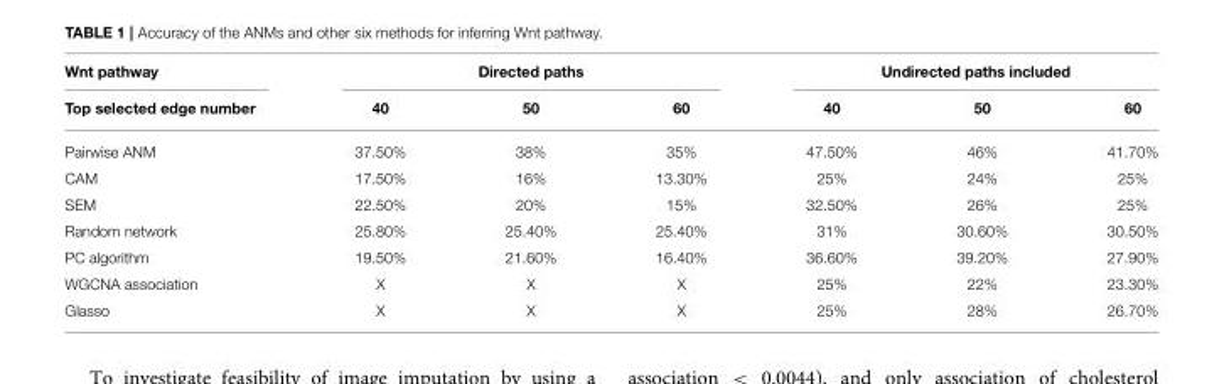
<table><thead><tr><td rowspan="2">Wnt pathway Top selected edge number</td><td colspan="3">Directed paths</td><td colspan="3">Undirected paths included</td></tr><tr><td>40</td><td>50</td><td>60</td><td>40</td><td>50</td><td>60</td></tr></thead><tbody><tr><td>Pairwise ANM</td><td>37.50%</td><td>38%</td><td>35%</td><td>47.50%</td><td>46%</td><td>41.70%</td></tr><tr><td>CAM</td><td>17.50%</td><td>16%</td><td>13.30%</td><td>25%</td><td>24%</td><td>25%</td></tr><tr><td>SEM</td><td>22.50%</td><td>20%</td><td>15%</td><td>32.50%</td><td>26%</td><td>25%</td></tr><tr><td>Random network</td><td>25.80%</td><td>25.40%</td><td>25.40%</td><td>31%</td><td>30.60%</td><td>30.50%</td></tr><tr><td>PC algorithm</td><td>19.50%</td><td>21.60%</td><td>16.40%</td><td>36.60%</td><td>39.20%</td><td>27.90%</td></tr><tr><td>WGCNA association</td><td>X</td><td>X</td><td>X</td><td>25%</td><td>22%</td><td>23.30%</td></tr><tr><td>Glasso</td><td>X</td><td>X</td><td>X</td><td>25%</td><td>28%</td><td>26.70%</td></tr></tbody></table>